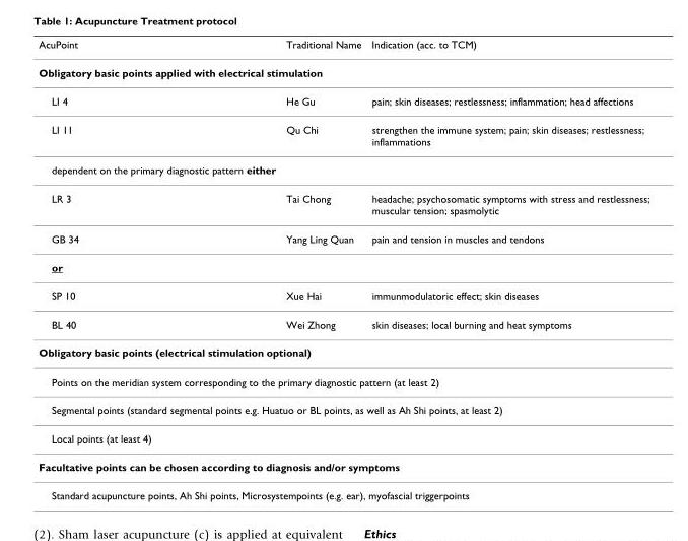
<table><thead><tr><td>AcuPoint</td><td>Traditional Name</td><td>Indication (acc. to TCM)</td></tr></thead><tbody><tr><td colspan="3">Obligatory basic points applied with electrical stimulation</td></tr><tr><td>LI 4</td><td>He Gu</td><td>pain; skin diseases; restlessness; inflammation; head affections</td></tr><tr><td>LI 11</td><td>Qu Chi</td><td>strengthen the immune system; pain; skin diseases; restlessness; inflammations</td></tr><tr><td colspan="3">dependent on the primary diagnostic pattern either</td></tr><tr><td>LR 3</td><td>Tai Chong</td><td>headache; psychosomatic symptoms with stress and restlessness; muscular tension; spasmolytic</td></tr><tr><td>GB 34</td><td>Yang Ling Quan</td><td>pain and tension in muscles and tendons</td></tr><tr><td colspan="3">or</td></tr><tr><td>SP 10</td><td>Xue Hai</td><td>immunmodulatoric effect; skin diseases</td></tr><tr><td>BL 40</td><td>Wei Zhong</td><td>skin diseases; local burning and heat symptoms</td></tr><tr><td colspan="3">Obligatory basic points (electrical stimulation optional)</td></tr><tr><td colspan="3">Points on the meridian system corresponding to the primary diagnostic pattern (at least 2)</td></tr><tr><td colspan="3">Segmental points (standard segmental points e.g. Huatuo or BL points, as well as Ah Shi points, at least 2)</td></tr><tr><td colspan="3">Local points (at least 4)</td></tr><tr><td colspan="3">Facultative points can be chosen according to diagnosis and/or symptoms</td></tr><tr><td colspan="3">Standard acupuncture points, Ah Shi points, Microsystempoints (e.g. ear), myofascial triggerpoints</td></tr></tbody></table>